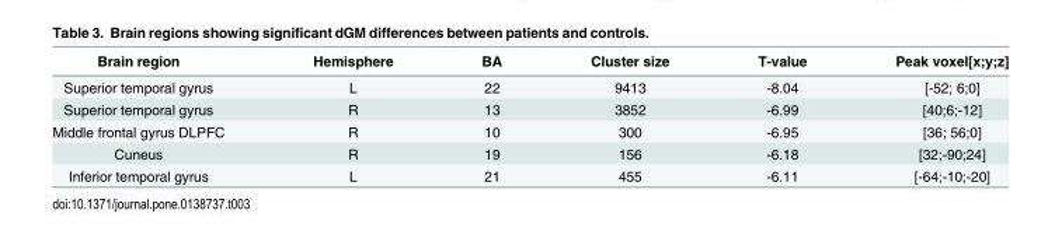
<table><thead><tr><td>Brain region</td><td>Hemisphere</td><td>BA</td><td>Cluster size</td><td>T-value</td><td>Peak voxel[x;y;z]</td></tr></thead><tbody><tr><td>Superior temporal gyrus</td><td>L</td><td>22</td><td>9413</td><td>-8.04</td><td>[-52; 6;0]</td></tr><tr><td>Superior temporal gyrus</td><td>R</td><td>13</td><td>3852</td><td>-6.99</td><td>[40;6;-12]</td></tr><tr><td>Middle frontal gyrus DLPFC</td><td>R</td><td>10</td><td>300</td><td>-6.95</td><td>[36; 56;0]</td></tr><tr><td>Cuneus</td><td>R</td><td>19</td><td>156</td><td>-6.18</td><td>[32;-90;24]</td></tr><tr><td>Inferior temporal gyrus</td><td>L</td><td>21</td><td>455</td><td>-6.11</td><td>[-64;-10;-20]</td></tr></tbody></table>